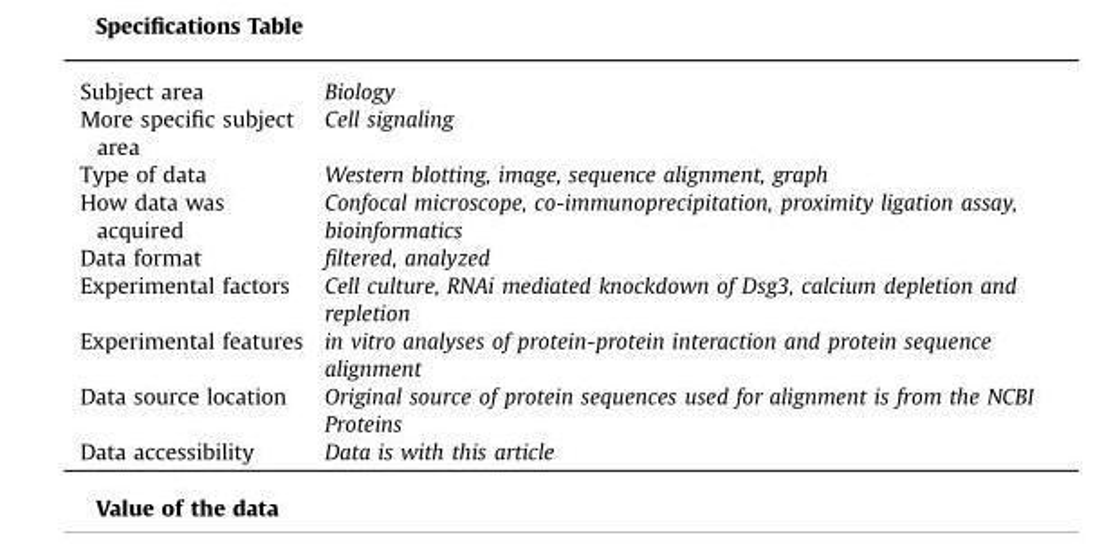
<table><tbody><tr><td>Subject area</td><td>Biology</td></tr><tr><td>More specific subject area</td><td>Cell signaling</td></tr><tr><td>Type of data</td><td>Western blotting, image, sequence alignment, graph</td></tr><tr><td>How data was acquired</td><td>Confocal microscope, co-immunoprecipitation, proximity ligation assay, bioinformatics</td></tr><tr><td>Data format</td><td>filtered, analyzed</td></tr><tr><td>Experimental factors</td><td>Cell culture, RNAi mediated knockdown of Dsg3, calcium depletion and repletion</td></tr><tr><td>Experimental features</td><td>in vitro analyses of protein-protein interaction and protein sequence alignment</td></tr><tr><td>Data source location</td><td>Original source of protein sequences used for alignment is from the NCBI Proteins</td></tr><tr><td>Data accessibility</td><td>Data is with this article</td></tr></tbody></table>